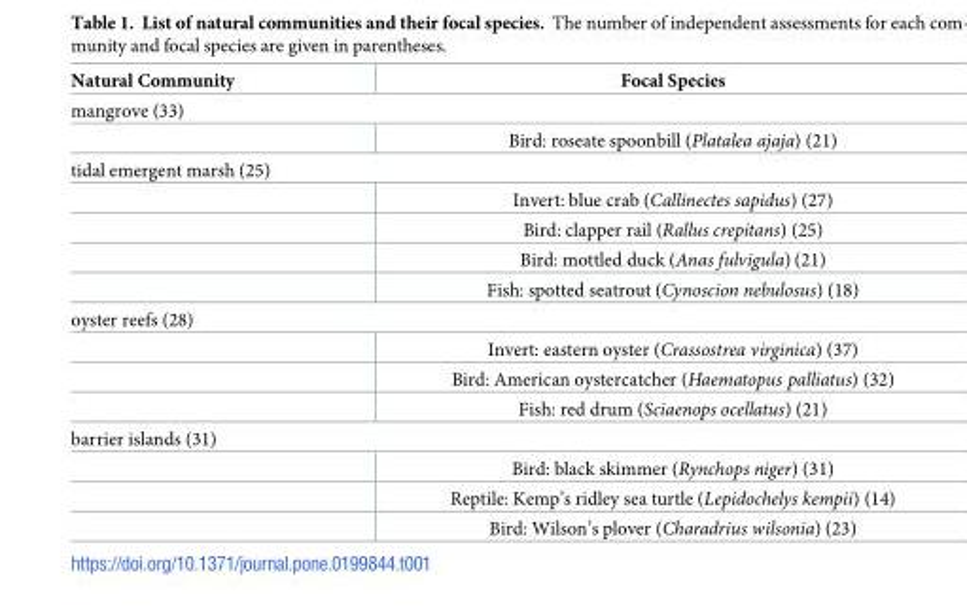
<table><thead><tr><td>Natural Community</td><td>Focal Species</td></tr></thead><tbody><tr><td colspan="2">mangrove (33)</td></tr><tr><td></td><td>Bird: roseate spoonbill (Platalea ajaja) (21)</td></tr><tr><td colspan="2">tidal emergent marsh (25)</td></tr><tr><td></td><td>Invert: blue crab (Callinectes sapidus) (27)</td></tr><tr><td></td><td>Bird: clapper rail (Rallus crepitans) (25)</td></tr><tr><td></td><td>Bird: mottled duck (Anas fulvigula) (21)</td></tr><tr><td></td><td>Fish: spotted seatrout (Cynoscion nebulosus) (18)</td></tr><tr><td colspan="2">oyster reefs (28)</td></tr><tr><td></td><td>Invert: eastern oyster (Crassostrea virginica) (37)</td></tr><tr><td></td><td>Bird: American oystercatcher (Haematopus palliatus) (32)</td></tr><tr><td></td><td>Fish: red drum (Sciaenops ocellatus) (21)</td></tr><tr><td colspan="2">barrier islands (31)</td></tr><tr><td></td><td>Bird: black skimmer (Rynchops niger) (31)</td></tr><tr><td></td><td>Reptile: Kemp’s ridley sea turtle (Lepidochelys kempii) (14)</td></tr><tr><td></td><td>Bird: Wilson’s plover (Charadrius wilsonia) (23)</td></tr></tbody></table>